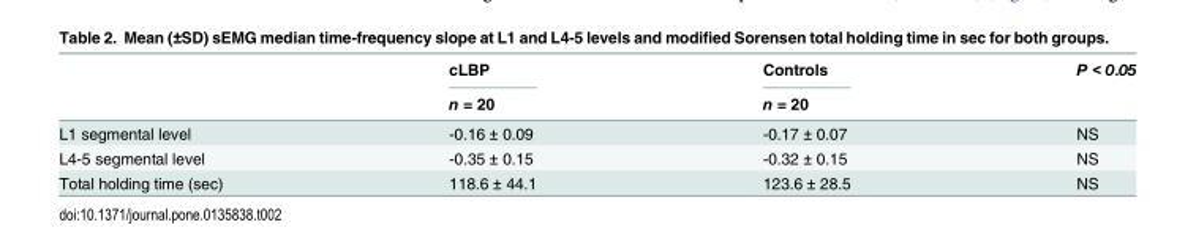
<table><thead><tr><td rowspan="2"></td><td rowspan="2">cLBP n = 20</td><td rowspan="2">Controls n = 20</td><td rowspan="2">P &lt; 0.05</td></tr><tr></tr></thead><tbody><tr><td>L1 segmental level</td><td>-0.16 ± 0.09</td><td>-0.17 ± 0.07</td><td>NS</td></tr><tr><td>L4-5 segmental level</td><td>-0.35 ± 0.15</td><td>-0.32 ± 0.15</td><td>NS</td></tr><tr><td>Total holding time (sec)</td><td>118.6 ± 44.1</td><td>123.6 ± 28.5</td><td>NS</td></tr></tbody></table>